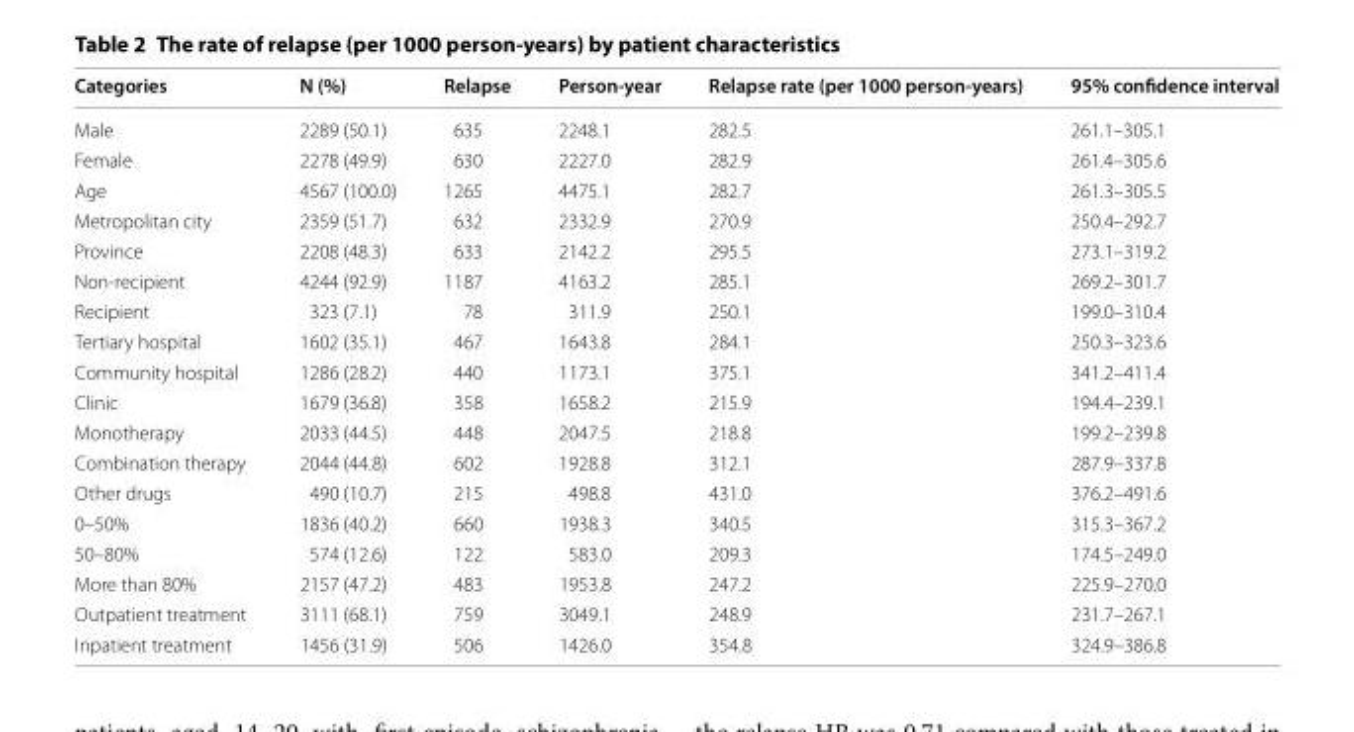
<table><thead><tr><td>Categories</td><td>N (%)</td><td>Relapse</td><td>Person‑year</td><td>Relapse rate (per 1000 person‑years)</td><td>95% confidence interval</td></tr></thead><tbody><tr><td>Male</td><td>2289 (50.1)</td><td>635</td><td>2248.1</td><td>282.5</td><td>261.1–305.1</td></tr><tr><td>Female</td><td>2278 (49.9)</td><td>630</td><td>2227.0</td><td>282.9</td><td>261.4–305.6</td></tr><tr><td>Age</td><td>4567 (100.0)</td><td>1265</td><td>4475.1</td><td>282.7</td><td>261.3–305.5</td></tr><tr><td>Metropolitan city</td><td>2359 (51.7)</td><td>632</td><td>2332.9</td><td>270.9</td><td>250.4–292.7</td></tr><tr><td>Province</td><td>2208 (48.3)</td><td>633</td><td>2142.2</td><td>295.5</td><td>273.1–319.2</td></tr><tr><td>Non‑recipient</td><td>4244 (92.9)</td><td>1187</td><td>4163.2</td><td>285.1</td><td>269.2–301.7</td></tr><tr><td>Recipient</td><td>323 (7.1)</td><td>78</td><td>311.9</td><td>250.1</td><td>199.0–310.4</td></tr><tr><td>Tertiary hospital</td><td>1602 (35.1)</td><td>467</td><td>1643.8</td><td>284.1</td><td>250.3–323.6</td></tr><tr><td>Community hospital</td><td>1286 (28.2)</td><td>440</td><td>1173.1</td><td>375.1</td><td>341.2–411.4</td></tr><tr><td>Clinic</td><td>1679 (36.8)</td><td>358</td><td>1658.2</td><td>215.9</td><td>194.4–239.1</td></tr><tr><td>Monotherapy</td><td>2033 (44.5)</td><td>448</td><td>2047.5</td><td>218.8</td><td>199.2–239.8</td></tr><tr><td>Combination therapy</td><td>2044 (44.8)</td><td>602</td><td>1928.8</td><td>312.1</td><td>287.9–337.8</td></tr><tr><td>Other drugs</td><td>490 (10.7)</td><td>215</td><td>498.8</td><td>431.0</td><td>376.2–491.6</td></tr><tr><td>0–50%</td><td>1836 (40.2)</td><td>660</td><td>1938.3</td><td>340.5</td><td>315.3–367.2</td></tr><tr><td>50–80%</td><td>574 (12.6)</td><td>122</td><td>583.0</td><td>209.3</td><td>174.5–249.0</td></tr><tr><td>More than 80%</td><td>2157 (47.2)</td><td>483</td><td>1953.8</td><td>247.2</td><td>225.9–270.0</td></tr><tr><td>Outpatient treatment</td><td>3111 (68.1)</td><td>759</td><td>3049.1</td><td>248.9</td><td>231.7–267.1</td></tr><tr><td>Inpatient treatment</td><td>1456 (31.9)</td><td>506</td><td>1426.0</td><td>354.8</td><td>324.9–386.8</td></tr></tbody></table>